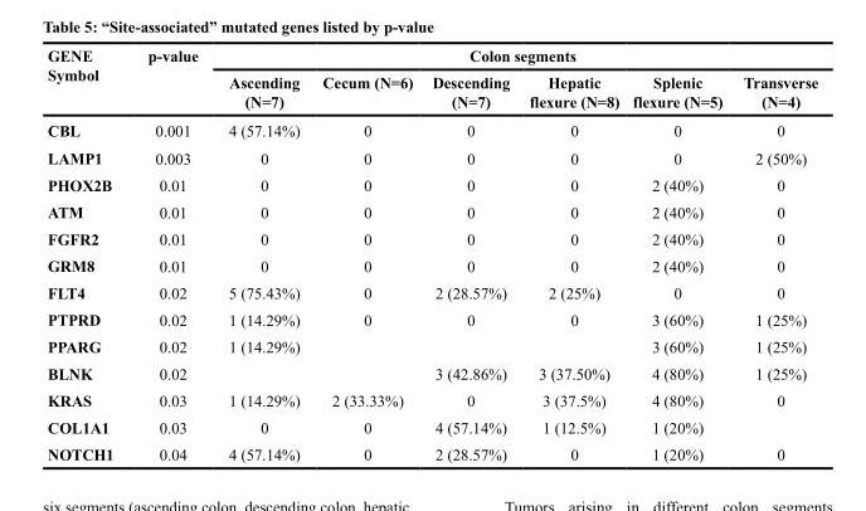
<table><thead><tr><td rowspan="2">GENE Symbol</td><td rowspan="2">p-value</td><td colspan="6">Colon segments</td></tr><tr><td>Ascending (N=7)</td><td>Cecum (N=6)</td><td>Descending (N=7)</td><td>Hepatic flexure (N=8)</td><td>Splenic flexure (N=5)</td><td>Transverse (N=4)</td></tr></thead><tbody><tr><td>CBL</td><td>0.001</td><td>4 (57.14%)</td><td>0</td><td>0</td><td>0</td><td>0</td><td>0</td></tr><tr><td>LAMP1</td><td>0.003</td><td>0</td><td>0</td><td>0</td><td>0</td><td>0</td><td>2 (50%)</td></tr><tr><td>PHOX2B</td><td>0.01</td><td>0</td><td>0</td><td>0</td><td>0</td><td>2 (40%)</td><td>0</td></tr><tr><td>ATM</td><td>0.01</td><td>0</td><td>0</td><td>0</td><td>0</td><td>2 (40%)</td><td>0</td></tr><tr><td>FGFR2</td><td>0.01</td><td>0</td><td>0</td><td>0</td><td>0</td><td>2 (40%)</td><td>0</td></tr><tr><td>GRM8</td><td>0.01</td><td>0</td><td>0</td><td>0</td><td>0</td><td>2 (40%)</td><td>0</td></tr><tr><td>FLT4</td><td>0.02</td><td>5 (75.43%)</td><td>0</td><td>2 (28.57%)</td><td>2 (25%)</td><td>0</td><td>0</td></tr><tr><td>PTPRD</td><td>0.02</td><td>1 (14.29%)</td><td>0</td><td>0</td><td>0</td><td>3 (60%)</td><td>1 (25%)</td></tr><tr><td>PPARG</td><td>0.02</td><td>1 (14.29%)</td><td></td><td></td><td></td><td>3 (60%)</td><td>1 (25%)</td></tr><tr><td>BLNK</td><td>0.02</td><td></td><td></td><td>3 (42.86%)</td><td>3 (37.50%)</td><td>4 (80%)</td><td>1 (25%)</td></tr><tr><td>KRAS</td><td>0.03</td><td>1 (14.29%)</td><td>2 (33.33%)</td><td>0</td><td>3 (37.5%)</td><td>4 (80%)</td><td>0</td></tr><tr><td>COL1A1</td><td>0.03</td><td>0</td><td>0</td><td>4 (57.14%)</td><td>1 (12.5%)</td><td>1 (20%)</td><td></td></tr><tr><td>NOTCH1</td><td>0.04</td><td>4 (57.14%)</td><td>0</td><td>2 (28.57%)</td><td>0</td><td>1 (20%)</td><td>0</td></tr></tbody></table>